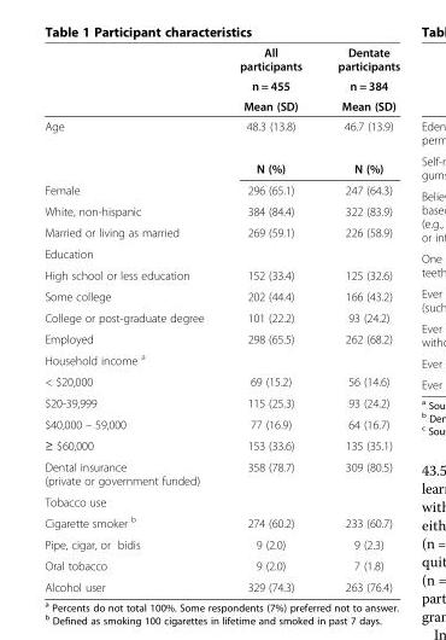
<table><thead><tr><td rowspan="3"></td><td rowspan="3">All participants n = 455 Mean (SD)</td><td rowspan="3">Dentate participants n = 384 Mean (SD)</td></tr><tr></tr><tr></tr></thead><tbody><tr><td rowspan="2">Age</td><td>48.3 (13.8)</td><td>46.7 (13.9)</td></tr><tr><td>N (%)</td><td>N (%)</td></tr><tr><td>Female</td><td>296 (65.1)</td><td>247 (64.3)</td></tr><tr><td>White, non-hispanic</td><td>384 (84.4)</td><td>322 (83.9)</td></tr><tr><td>Married or living as married</td><td>269 (59.1)</td><td>226 (58.9)</td></tr><tr><td colspan="3">Education</td></tr><tr><td>High school or less education</td><td>152 (33.4)</td><td>125 (32.6)</td></tr><tr><td>Some college</td><td>202 (44.4)</td><td>166 (43.2)</td></tr><tr><td>College or post-graduate degree</td><td>101 (22.2)</td><td>93 (24.2)</td></tr><tr><td>Employed</td><td>298 (65.5)</td><td>262 (68.2)</td></tr><tr><td colspan="3">Household income <sup>a</sup></td></tr><tr><td>&lt; $20,000</td><td>69 (15.2)</td><td>56 (14.6)</td></tr><tr><td>$20-39,999</td><td>115 (25.3)</td><td>93 (24.2)</td></tr><tr><td>$40,000 – 59,000</td><td>77 (16.9)</td><td>64 (16.7)</td></tr><tr><td>≥ $60,000</td><td>153 (33.6)</td><td>135 (35.1)</td></tr><tr><td>Dental insurance (private or government funded)</td><td>358 (78.7)</td><td>309 (80.5)</td></tr><tr><td colspan="3">Tobacco use</td></tr><tr><td>Cigarette smoker <sup>b</sup></td><td>274 (60.2)</td><td>233 (60.7)</td></tr><tr><td>Pipe, cigar, or bidis</td><td>9 (2.0)</td><td>9 (2.3)</td></tr><tr><td>Oral tobacco</td><td>9 (2.0)</td><td>7 (1.8)</td></tr><tr><td>Alcohol user</td><td>329 (74.3)</td><td>263 (76.4)</td></tr></tbody></table>